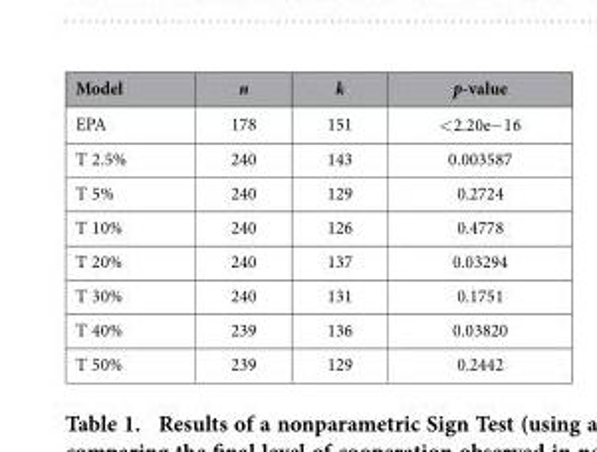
<table><thead><tr><td>Model</td><td>n</td><td>k</td><td>p-value</td></tr></thead><tbody><tr><td>EPA</td><td>178</td><td>151</td><td>&lt; 2.20e−16</td></tr><tr><td>T 2.5%</td><td>240</td><td>143</td><td>0.003587</td></tr><tr><td>T 5%</td><td>240</td><td>129</td><td>0.2724</td></tr><tr><td>T 10%</td><td>240</td><td>126</td><td>0.4778</td></tr><tr><td>T 20%</td><td>240</td><td>137</td><td>0.03294</td></tr><tr><td>T 30%</td><td>240</td><td>131</td><td>0.1751</td></tr><tr><td>T 40%</td><td>239</td><td>136</td><td>0.03820</td></tr><tr><td>T 50%</td><td>239</td><td>129</td><td>0.2442</td></tr></tbody></table>